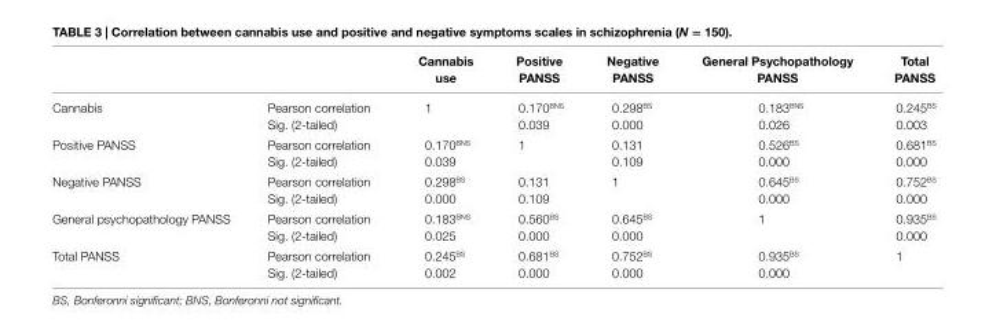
<table><thead><tr><td></td><td></td><td>cannabis use</td><td>Positive Panss</td><td>negative Panss</td><td>general Psychopathology Panss</td><td>Total Panss</td></tr></thead><tbody><tr><td rowspan="2">Cannabis</td><td>Pearson correlation</td><td>1</td><td>0.170<sup>BNS</sup></td><td>0.298<sup>BS</sup></td><td>0.183<sup>BNS</sup></td><td>0.245<sup>BS</sup></td></tr><tr><td>Sig. (2-tailed)</td><td></td><td>0.039</td><td>0.000</td><td>0.026</td><td>0.003</td></tr><tr><td rowspan="2">Positive PANSS</td><td>Pearson correlation</td><td>0.170<sup>BNS</sup></td><td>1</td><td>0.131</td><td>0.526<sup>BS</sup></td><td>0.681<sup>BS</sup></td></tr><tr><td>Sig. (2-tailed)</td><td>0.039</td><td></td><td>0.109</td><td>0.000</td><td>0.000</td></tr><tr><td rowspan="2">Negative PANSS</td><td>Pearson correlation</td><td>0.298<sup>BS</sup></td><td>0.131</td><td>1</td><td>0.645<sup>BS</sup></td><td>0.752<sup>BS</sup></td></tr><tr><td>Sig. (2-tailed)</td><td>0.000</td><td>0.109</td><td></td><td>0.000</td><td>0.000</td></tr><tr><td rowspan="2">General psychopathology PANSS</td><td>Pearson correlation</td><td>0.183<sup>BNS</sup></td><td>0.560<sup>BS</sup></td><td>0.645<sup>BS</sup></td><td>1</td><td>0.935<sup>BS</sup></td></tr><tr><td>Sig. (2-tailed)</td><td>0.025</td><td>0.000</td><td>0.000</td><td></td><td>0.000</td></tr><tr><td rowspan="2">Total PANSS</td><td>Pearson correlation</td><td>0.245<sup>BS</sup></td><td>0.681<sup>BS</sup></td><td>0.752<sup>BS</sup></td><td>0.935<sup>BS</sup></td><td>1</td></tr><tr><td>Sig. (2-tailed)</td><td>0.002</td><td>0.000</td><td>0.000</td><td>0.000</td><td></td></tr></tbody></table>